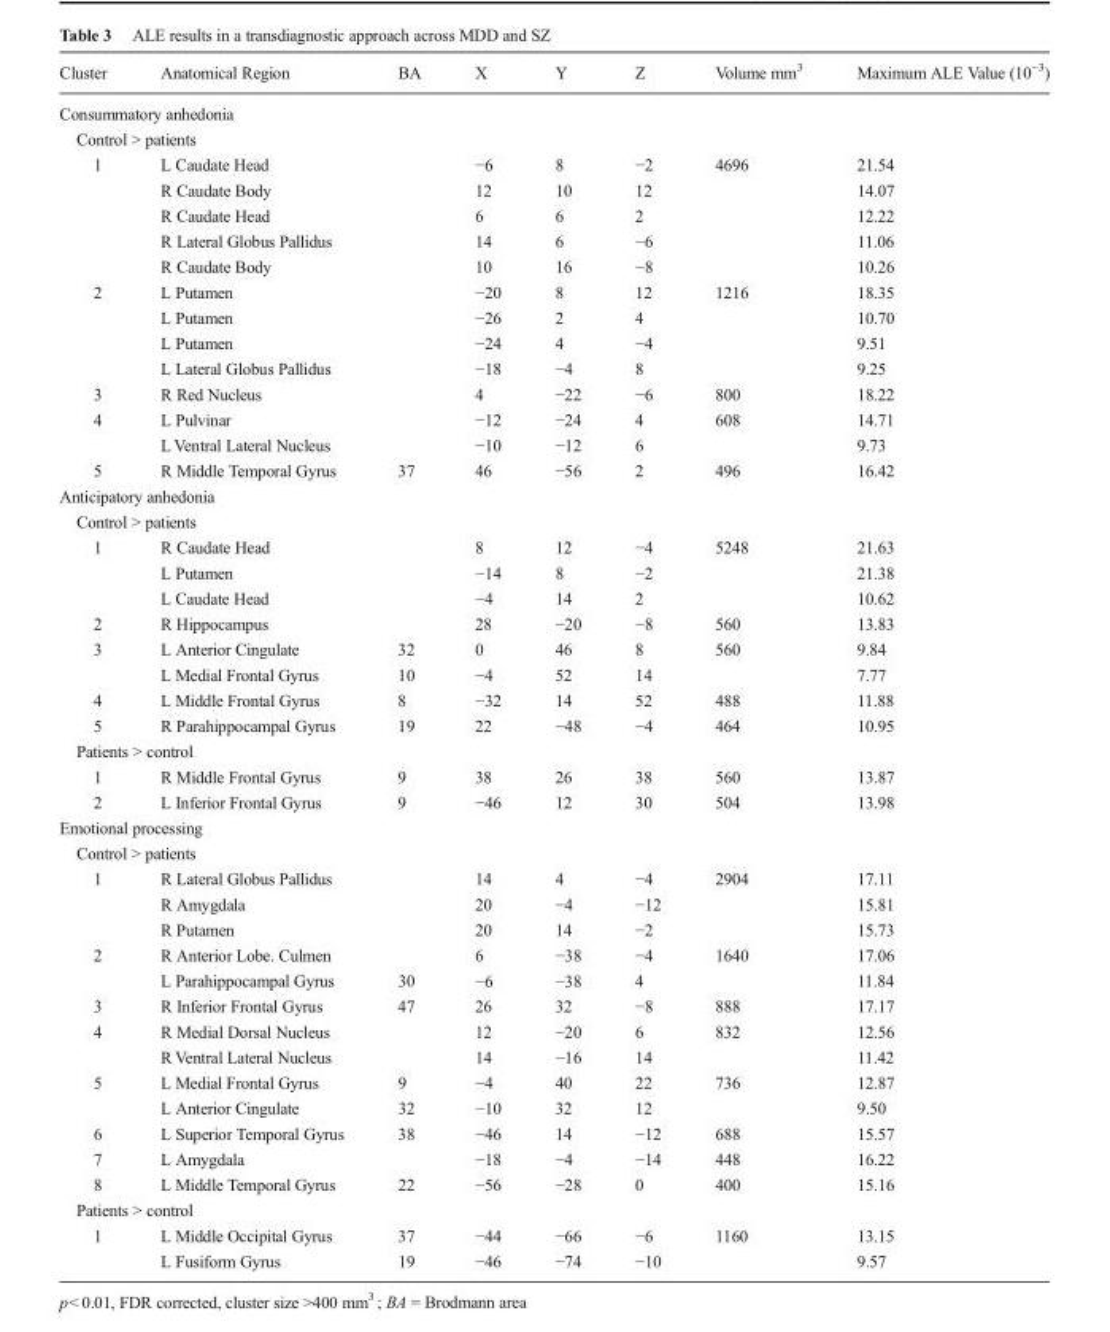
<table><thead><tr><td>Cluster</td><td>Anatomical Region</td><td>BA</td><td>X</td><td>Y</td><td>Z</td><td>Volume mm<sup>3</sup></td><td>Maximum ALE Value (10<sup>−3</sup>)</td></tr></thead><tbody><tr><td colspan="8">Consummatory anhedonia</td></tr><tr><td colspan="8">Control &gt; patients</td></tr><tr><td rowspan="5">1</td><td>L Caudate Head</td><td></td><td>−6</td><td>8</td><td>−2</td><td rowspan="5">4696</td><td>21.54</td></tr><tr><td>R Caudate Body</td><td></td><td>12</td><td>10</td><td>12</td><td>14.07</td></tr><tr><td>R Caudate Head</td><td></td><td>6</td><td>6</td><td>2</td><td>12.22</td></tr><tr><td>R Lateral Globus Pallidus</td><td></td><td>14</td><td>6</td><td>−6</td><td>11.06</td></tr><tr><td>R Caudate Body</td><td></td><td>10</td><td>16</td><td>−8</td><td>10.26</td></tr><tr><td rowspan="4">2</td><td>L Putamen</td><td></td><td>−20</td><td>8</td><td>12</td><td rowspan="4">1216</td><td>18.35</td></tr><tr><td>L Putamen</td><td></td><td>−26</td><td>2</td><td>4</td><td>10.70</td></tr><tr><td>L Putamen</td><td></td><td>−24</td><td>4</td><td>−4</td><td>9.51</td></tr><tr><td>L Lateral Globus Pallidus</td><td></td><td>−18</td><td>−4</td><td>8</td><td>9.25</td></tr><tr><td>3</td><td>R Red Nucleus</td><td></td><td>4</td><td>−22</td><td>−6</td><td>800</td><td>18.22</td></tr><tr><td rowspan="2">4</td><td>L Pulvinar</td><td></td><td>−12</td><td>−24</td><td>4</td><td rowspan="2">608</td><td>14.71</td></tr><tr><td>L Ventral Lateral Nucleus</td><td></td><td>−10</td><td>−12</td><td>6</td><td>9.73</td></tr><tr><td>5</td><td>R Middle Temporal Gyrus</td><td>37</td><td>46</td><td>−56</td><td>2</td><td>496</td><td>16.42</td></tr><tr><td colspan="8">Anticipatory anhedonia</td></tr><tr><td colspan="8">Control &gt; patients</td></tr><tr><td rowspan="3">1</td><td>R Caudate Head</td><td></td><td>8</td><td>12</td><td>−4</td><td rowspan="3">5248</td><td>21.63</td></tr><tr><td>L Putamen</td><td></td><td>−14</td><td>8</td><td>−2</td><td>21.38</td></tr><tr><td>L Caudate Head</td><td></td><td>−4</td><td>14</td><td>2</td><td>10.62</td></tr><tr><td>2</td><td>R Hippocampus</td><td></td><td>28</td><td>−20</td><td>−8</td><td>560</td><td>13.83</td></tr><tr><td rowspan="2">3</td><td>L Anterior Cingulate</td><td>32</td><td>0</td><td>46</td><td>8</td><td rowspan="2">560</td><td>9.84</td></tr><tr><td>L Medial Frontal Gyrus</td><td>10</td><td>−4</td><td>52</td><td>14</td><td>7.77</td></tr><tr><td>4</td><td>L Middle Frontal Gyrus</td><td>8</td><td>−32</td><td>14</td><td>52</td><td>488</td><td>11.88</td></tr><tr><td>5</td><td>R Parahippocampal Gyrus</td><td>19</td><td>22</td><td>−48</td><td>−4</td><td>464</td><td>10.95</td></tr><tr><td colspan="8">Patients &gt; control</td></tr><tr><td>1</td><td>R Middle Frontal Gyrus</td><td>9</td><td>38</td><td>26</td><td>38</td><td>560</td><td>13.87</td></tr><tr><td>2</td><td>L Inferior Frontal Gyrus</td><td>9</td><td>−46</td><td>12</td><td>30</td><td>504</td><td>13.98</td></tr><tr><td colspan="8">Emotional processing</td></tr><tr><td colspan="8">Control &gt; patients</td></tr><tr><td rowspan="3">1</td><td>R Lateral Globus Pallidus</td><td></td><td>14</td><td>4</td><td>−4</td><td rowspan="3">2904</td><td>17.11</td></tr><tr><td>R Amygdala</td><td></td><td>20</td><td>−4</td><td>−12</td><td>15.81</td></tr><tr><td>R Putamen</td><td></td><td>20</td><td>14</td><td>−2</td><td>15.73</td></tr><tr><td rowspan="2">2</td><td>R Anterior Lobe. Culmen</td><td></td><td>6</td><td>−38</td><td>−4</td><td rowspan="2">1640</td><td>17.06</td></tr><tr><td>L Parahippocampal Gyrus</td><td>30</td><td>−6</td><td>−38</td><td>4</td><td>11.84</td></tr><tr><td>3</td><td>R Inferior Frontal Gyrus</td><td>47</td><td>26</td><td>32</td><td>−8</td><td>888</td><td>17.17</td></tr><tr><td rowspan="2">4</td><td>R Medial Dorsal Nucleus</td><td></td><td>12</td><td>−20</td><td>6</td><td rowspan="2">832</td><td>12.56</td></tr><tr><td>R Ventral Lateral Nucleus</td><td></td><td>14</td><td>−16</td><td>14</td><td>11.42</td></tr><tr><td rowspan="2">5</td><td>L Medial Frontal Gyrus</td><td>9</td><td>−4</td><td>40</td><td>22</td><td rowspan="2">736</td><td>12.87</td></tr><tr><td>L Anterior Cingulate</td><td>32</td><td>−10</td><td>32</td><td>12</td><td>9.50</td></tr><tr><td>6</td><td>L Superior Temporal Gyrus</td><td>38</td><td>−46</td><td>14</td><td>−12</td><td>688</td><td>15.57</td></tr><tr><td>7</td><td>L Amygdala</td><td></td><td>−18</td><td>−4</td><td>−14</td><td>448</td><td>16.22</td></tr><tr><td>8</td><td>L Middle Temporal Gyrus</td><td>22</td><td>−56</td><td>−28</td><td>0</td><td>400</td><td>15.16</td></tr><tr><td colspan="8">Patients &gt; control</td></tr><tr><td rowspan="2">1</td><td>L Middle Occipital Gyrus</td><td>37</td><td>−44</td><td>−66</td><td>−6</td><td rowspan="2">1160</td><td>13.15</td></tr><tr><td>L Fusiform Gyrus</td><td>19</td><td>−46</td><td>−74</td><td>−10</td><td>9.57</td></tr></tbody></table>